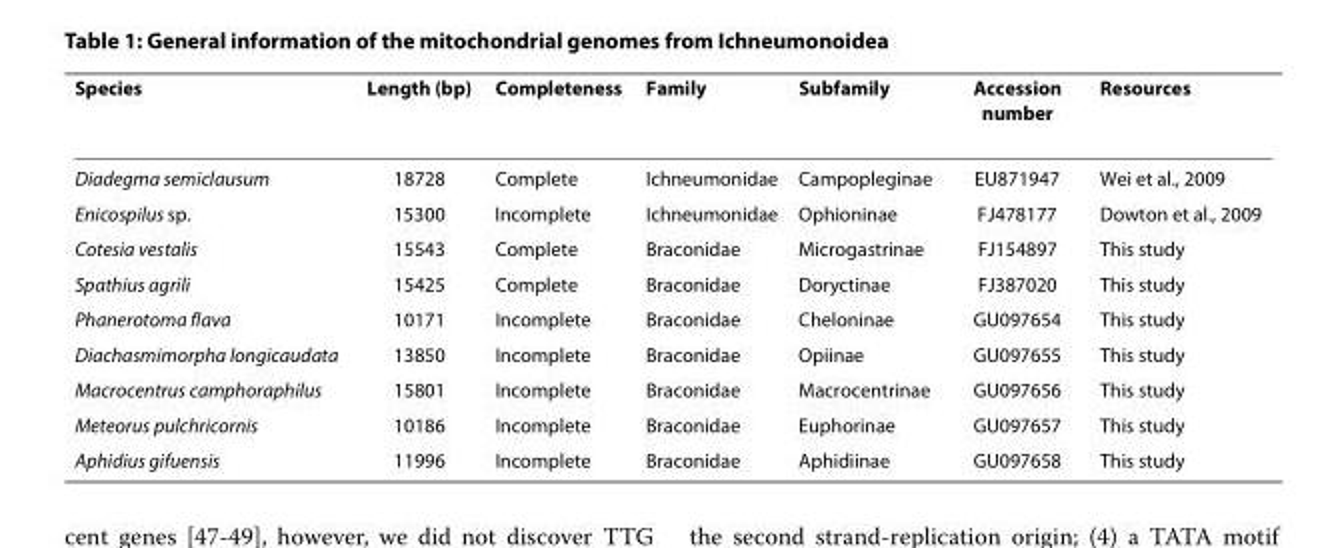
<table><thead><tr><td>Species</td><td>Length (bp)</td><td>Completeness</td><td>Family</td><td>Subfamily</td><td>Accession number</td><td>Resources</td></tr></thead><tbody><tr><td>Diadegma semiclausum</td><td>18728</td><td>Complete</td><td>Ichneumonidae</td><td>Campopleginae</td><td>EU871947</td><td>Wei et al., 2009</td></tr><tr><td>Enicospilus sp.</td><td>15300</td><td>Incomplete</td><td>Ichneumonidae</td><td>Ophioninae</td><td>FJ478177</td><td>Dowton et al., 2009</td></tr><tr><td>Cotesia vestalis</td><td>15543</td><td>Complete</td><td>Braconidae</td><td>Microgastrinae</td><td>FJ154897</td><td>This study</td></tr><tr><td>Spathius agrili</td><td>15425</td><td>Complete</td><td>Braconidae</td><td>Doryctinae</td><td>FJ387020</td><td>This study</td></tr><tr><td>Phanerotoma flava</td><td>10171</td><td>Incomplete</td><td>Braconidae</td><td>Cheloninae</td><td>GU097654</td><td>This study</td></tr><tr><td>Diachasmimorpha longicaudata</td><td>13850</td><td>Incomplete</td><td>Braconidae</td><td>Opiinae</td><td>GU097655</td><td>This study</td></tr><tr><td>Macrocentrus camphoraphilus</td><td>15801</td><td>Incomplete</td><td>Braconidae</td><td>Macrocentrinae</td><td>GU097656</td><td>This study</td></tr><tr><td>Meteorus pulchricornis</td><td>10186</td><td>Incomplete</td><td>Braconidae</td><td>Euphorinae</td><td>GU097657</td><td>This study</td></tr><tr><td>Aphidius gifuensis</td><td>11996</td><td>Incomplete</td><td>Braconidae</td><td>Aphidiinae</td><td>GU097658</td><td>This study</td></tr></tbody></table>